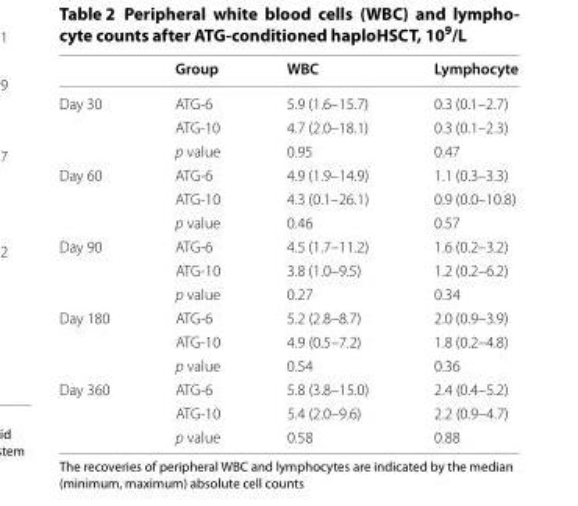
<table><thead><tr><td></td><td>Group</td><td>WBC</td><td>Lymphocyte</td></tr></thead><tbody><tr><td rowspan="3">Day 30</td><td>ATG‑6</td><td>5.9 (1.6–15.7)</td><td>0.3 (0.1–2.7)</td></tr><tr><td>ATG‑10</td><td>4.7 (2.0–18.1)</td><td>0.3 (0.1–2.3)</td></tr><tr><td>p value</td><td>0.95</td><td>0.47</td></tr><tr><td rowspan="3">Day 60</td><td>ATG‑6</td><td>4.9 (1.9–14.9)</td><td>1.1 (0.3–3.3)</td></tr><tr><td>ATG‑10</td><td>4.3 (0.1–26.1)</td><td>0.9 (0.0–10.8)</td></tr><tr><td>p value</td><td>0.46</td><td>0.57</td></tr><tr><td rowspan="3">Day 90</td><td>ATG‑6</td><td>4.5 (1.7–11.2)</td><td>1.6 (0.2–3.2)</td></tr><tr><td>ATG‑10</td><td>3.8 (1.0–9.5)</td><td>1.2 (0.2–6.2)</td></tr><tr><td>p value</td><td>0.27</td><td>0.34</td></tr><tr><td rowspan="3">Day 180</td><td>ATG‑6</td><td>5.2 (2.8–8.7)</td><td>2.0 (0.9–3.9)</td></tr><tr><td>ATG‑10</td><td>4.9 (0.5–7.2)</td><td>1.8 (0.2–4.8)</td></tr><tr><td>p value</td><td>0.54</td><td>0.36</td></tr><tr><td rowspan="3">Day 360</td><td>ATG‑6</td><td>5.8 (3.8–15.0)</td><td>2.4 (0.4–5.2)</td></tr><tr><td>ATG‑10</td><td>5.4 (2.0–9.6)</td><td>2.2 (0.9–4.7)</td></tr><tr><td>p value</td><td>0.58</td><td>0.88</td></tr></tbody></table>